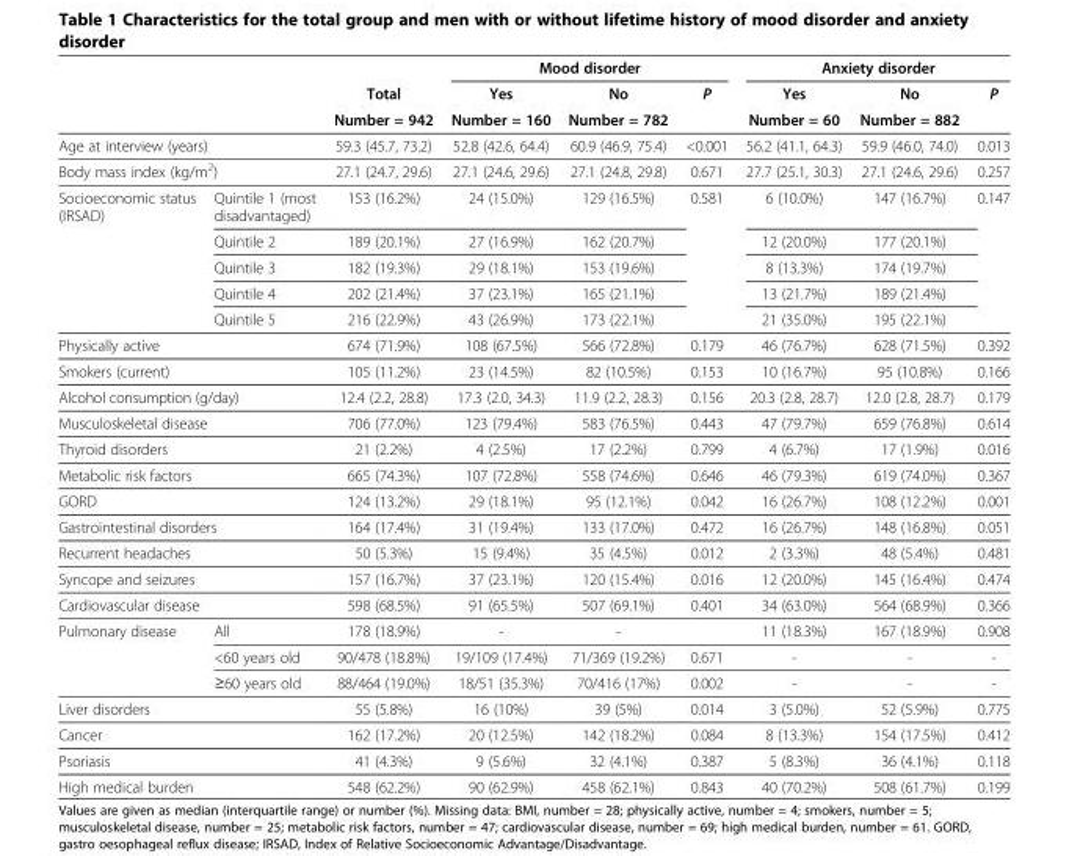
<table><thead><tr><td rowspan="3"></td><td rowspan="3"></td><td rowspan="3">Total Number = 942</td><td colspan="3">Mood disorder</td><td colspan="3">Anxiety disorder</td></tr><tr><td rowspan="2">Yes Number = 160</td><td rowspan="2">No Number = 782</td><td rowspan="2">P</td><td rowspan="2">Yes Number = 60</td><td rowspan="2">No Number = 882</td><td rowspan="2">P</td></tr><tr></tr></thead><tbody><tr><td colspan="2">Age at interview (years)</td><td>59.3 (45.7, 73.2)</td><td>52.8 (42.6, 64.4)</td><td>60.9 (46.9, 75.4)</td><td>&lt;0.001</td><td>56.2 (41.1, 64.3)</td><td>59.9 (46.0, 74.0)</td><td>0.013</td></tr><tr><td colspan="2">Body mass index (kg/m<sup>2</sup>)</td><td>27.1 (24.7, 29.6)</td><td>27.1 (24.6, 29.6)</td><td>27.1 (24.8, 29.8)</td><td>0.671</td><td>27.7 (25.1, 30.3)</td><td>27.1 (24.6, 29.6)</td><td>0.257</td></tr><tr><td rowspan="5">Socioeconomic status (IRSAD)</td><td>Quintile 1 (most disadvantaged)</td><td>153 (16.2%)</td><td>24 (15.0%)</td><td>129 (16.5%)</td><td rowspan="5">0.581</td><td>6 (10.0%)</td><td>147 (16.7%)</td><td rowspan="5">0.147</td></tr><tr><td>Quintile 2</td><td>189 (20.1%)</td><td>27 (16.9%)</td><td>162 (20.7%)</td><td>12 (20.0%)</td><td>177 (20.1%)</td></tr><tr><td>Quintile 3</td><td>182 (19.3%)</td><td>29 (18.1%)</td><td>153 (19.6%)</td><td>8 (13.3%)</td><td>174 (19.7%)</td></tr><tr><td>Quintile 4</td><td>202 (21.4%)</td><td>37 (23.1%)</td><td>165 (21.1%)</td><td>13 (21.7%)</td><td>189 (21.4%)</td></tr><tr><td>Quintile 5</td><td>216 (22.9%)</td><td>43 (26.9%)</td><td>173 (22.1%)</td><td>21 (35.0%)</td><td>195 (22.1%)</td></tr><tr><td colspan="2">Physically active</td><td>674 (71.9%)</td><td>108 (67.5%)</td><td>566 (72.8%)</td><td>0.179</td><td>46 (76.7%)</td><td>628 (71.5%)</td><td>0.392</td></tr><tr><td colspan="2">Smokers (current)</td><td>105 (11.2%)</td><td>23 (14.5%)</td><td>82 (10.5%)</td><td>0.153</td><td>10 (16.7%)</td><td>95 (10.8%)</td><td>0.166</td></tr><tr><td colspan="2">Alcohol consumption (g/day)</td><td>12.4 (2.2, 28.8)</td><td>17.3 (2.0, 34.3)</td><td>11.9 (2.2, 28.3)</td><td>0.156</td><td>20.3 (2.8, 28.7)</td><td>12.0 (2.8, 28.7)</td><td>0.179</td></tr><tr><td colspan="2">Musculoskeletal disease</td><td>706 (77.0%)</td><td>123 (79.4%)</td><td>583 (76.5%)</td><td>0.443</td><td>47 (79.7%)</td><td>659 (76.8%)</td><td>0.614</td></tr><tr><td colspan="2">Thyroid disorders</td><td>21 (2.2%)</td><td>4 (2.5%)</td><td>17 (2.2%)</td><td>0.799</td><td>4 (6.7%)</td><td>17 (1.9%)</td><td>0.016</td></tr><tr><td colspan="2">Metabolic risk factors</td><td>665 (74.3%)</td><td>107 (72.8%)</td><td>558 (74.6%)</td><td>0.646</td><td>46 (79.3%)</td><td>619 (74.0%)</td><td>0.367</td></tr><tr><td colspan="2">GORD</td><td>124 (13.2%)</td><td>29 (18.1%)</td><td>95 (12.1%)</td><td>0.042</td><td>16 (26.7%)</td><td>108 (12.2%)</td><td>0.001</td></tr><tr><td colspan="2">Gastrointestinal disorders</td><td>164 (17.4%)</td><td>31 (19.4%)</td><td>133 (17.0%)</td><td>0.472</td><td>16 (26.7%)</td><td>148 (16.8%)</td><td>0.051</td></tr><tr><td colspan="2">Recurrent headaches</td><td>50 (5.3%)</td><td>15 (9.4%)</td><td>35 (4.5%)</td><td>0.012</td><td>2 (3.3%)</td><td>48 (5.4%)</td><td>0.481</td></tr><tr><td colspan="2">Syncope and seizures</td><td>157 (16.7%)</td><td>37 (23.1%)</td><td>120 (15.4%)</td><td>0.016</td><td>12 (20.0%)</td><td>145 (16.4%)</td><td>0.474</td></tr><tr><td colspan="2">Cardiovascular disease</td><td>598 (68.5%)</td><td>91 (65.5%)</td><td>507 (69.1%)</td><td>0.401</td><td>34 (63.0%)</td><td>564 (68.9%)</td><td>0.366</td></tr><tr><td rowspan="3">Pulmonary disease</td><td>All</td><td>178 (18.9%)</td><td>-</td><td>-</td><td></td><td>11 (18.3%)</td><td>167 (18.9%)</td><td>0.908</td></tr><tr><td>&lt;60 years old</td><td>90/478 (18.8%)</td><td>19/109 (17.4%)</td><td>71/369 (19.2%)</td><td>0.671</td><td>-</td><td>-</td><td>-</td></tr><tr><td>≥60 years old</td><td>88/464 (19.0%)</td><td>18/51 (35.3%)</td><td>70/416 (17%)</td><td>0.002</td><td>-</td><td>-</td><td>-</td></tr><tr><td colspan="2">Liver disorders</td><td>55 (5.8%)</td><td>16 (10%)</td><td>39 (5%)</td><td>0.014</td><td>3 (5.0%)</td><td>52 (5.9%)</td><td>0.775</td></tr><tr><td colspan="2">Cancer</td><td>162 (17.2%)</td><td>20 (12.5%)</td><td>142 (18.2%)</td><td>0.084</td><td>8 (13.3%)</td><td>154 (17.5%)</td><td>0.412</td></tr><tr><td colspan="2">Psoriasis</td><td>41 (4.3%)</td><td>9 (5.6%)</td><td>32 (4.1%)</td><td>0.387</td><td>5 (8.3%)</td><td>36 (4.1%)</td><td>0.118</td></tr><tr><td colspan="2">High medical burden</td><td>548 (62.2%)</td><td>90 (62.9%)</td><td>458 (62.1%)</td><td>0.843</td><td>40 (70.2%)</td><td>508 (61.7%)</td><td>0.199</td></tr></tbody></table>